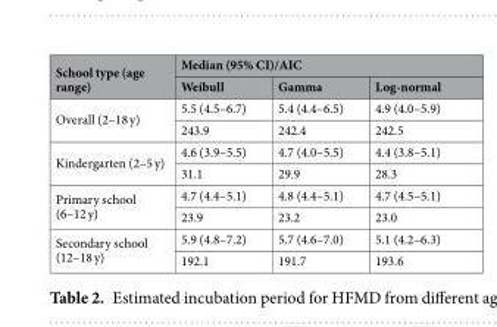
<table><thead><tr><td rowspan="2">School type (age range)</td><td colspan="3">Median (95% CI)/AIC</td></tr><tr><td>Weibull</td><td>Gamma</td><td>Log-normal</td></tr></thead><tbody><tr><td rowspan="2">Overall (2–18 y)</td><td>5.5 (4.5–6.7)</td><td>5.4 (4.4–6.5)</td><td>4.9 (4.0–5.9)</td></tr><tr><td>243.9</td><td>242.4</td><td>242.5</td></tr><tr><td rowspan="2">Kindergarten (2–5 y)</td><td>4.6 (3.9–5.5)</td><td>4.7 (4.0–5.5)</td><td>4.4 (3.8–5.1)</td></tr><tr><td>31.1</td><td>29.9</td><td>28.3</td></tr><tr><td rowspan="2">Primary school (6–12 y)</td><td>4.7 (4.4–5.1)</td><td>4.8 (4.4–5.1)</td><td>4.7 (4.5–5.1)</td></tr><tr><td>23.9</td><td>23.2</td><td>23.0</td></tr><tr><td rowspan="2">Secondary school (12–18 y)</td><td>5.9 (4.8–7.2)</td><td>5.7 (4.6–7.0)</td><td>5.1 (4.2–6.3)</td></tr><tr><td>192.1</td><td>191.7</td><td>193.6</td></tr></tbody></table>